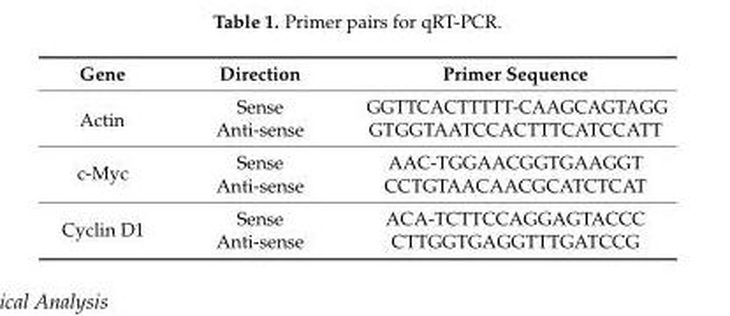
<table><thead><tr><td>Gene</td><td>Direction</td><td>Primer Sequence</td></tr></thead><tbody><tr><td rowspan="2">Actin</td><td>Sense</td><td>GGTTCACTTTTT-CAAGCAGTAGG</td></tr><tr><td>Anti-sense</td><td>GTGGTAATCCACTTTCATCCATT</td></tr><tr><td rowspan="2">c-Myc</td><td>Sense</td><td>AAC-TGGAACGGTGAAGGT</td></tr><tr><td>Anti-sense</td><td>CCTGTAACAACGCATCTCAT</td></tr><tr><td rowspan="2">Cyclin D1</td><td>Sense</td><td>ACA-TCTTCCAGGAGTACCC</td></tr><tr><td>Anti-sense</td><td>CTTGGTGAGGTTTGATCCG</td></tr></tbody></table>